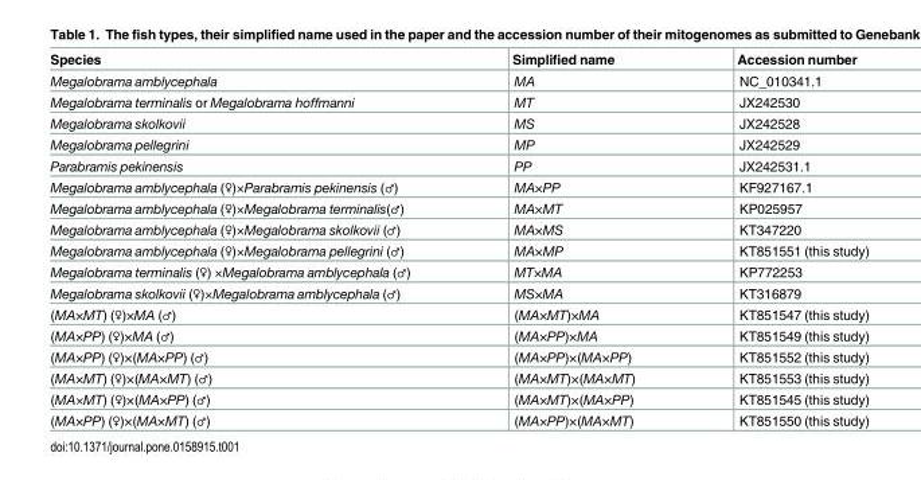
<table><thead><tr><td>Species</td><td>Simplified name</td><td>Accession number</td></tr></thead><tbody><tr><td>Megalobrama amblycephala</td><td>MA</td><td>NC_010341.1</td></tr><tr><td>Megalobrama terminalis or Megalobrama hoffmanni</td><td>MT</td><td>JX242530</td></tr><tr><td>Megalobrama skolkovii</td><td>MS</td><td>JX242528</td></tr><tr><td>Megalobrama pellegrini</td><td>MP</td><td>JX242529</td></tr><tr><td>Parabramis pekinensis</td><td>PP</td><td>JX242531.1</td></tr><tr><td>Megalobrama amblycephala (♀)×Parabramis pekinensis (♂)</td><td>MA×PP</td><td>KF927167.1</td></tr><tr><td>Megalobrama amblycephala (♀)×Megalobrama terminalis(♂)</td><td>MA×MT</td><td>KP025957</td></tr><tr><td>Megalobrama amblycephala (♀)×Megalobrama skolkovii (♂)</td><td>MA×MS</td><td>KT347220</td></tr><tr><td>Megalobrama amblycephala (♀)×Megalobrama pellegrini (♂)</td><td>MA×MP</td><td>KT851551 (this study)</td></tr><tr><td>Megalobrama terminalis (♀) ×Megalobrama amblycephala (♂)</td><td>MT×MA</td><td>KP772253</td></tr><tr><td>Megalobrama skolkovii (♀)×Megalobrama amblycephala (♂)</td><td>MS×MA</td><td>KT316879</td></tr><tr><td>(MA×MT) (♀)×MA (♂)</td><td>(MA×MT)×MA</td><td>KT851547 (this study)</td></tr><tr><td>(MA×PP) (♀)×MA (♂)</td><td>(MA×PP)×MA</td><td>KT851549 (this study)</td></tr><tr><td>(MA×PP) (♀)×(MA×PP) (♂)</td><td>(MA×PP)×(MA×PP)</td><td>KT851552 (this study)</td></tr><tr><td>(MA×MT) (♀)×(MA×MT) (♂)</td><td>(MA×MT)×(MA×MT)</td><td>KT851553 (this study)</td></tr><tr><td>(MA×MT) (♀)×(MA×PP) (♂)</td><td>(MA×MT)×(MA×PP)</td><td>KT851545 (this study)</td></tr><tr><td>(MA×PP) (♀)×(MA×MT) (♂)</td><td>(MA×PP)×(MA×MT)</td><td>KT851550 (this study)</td></tr></tbody></table>